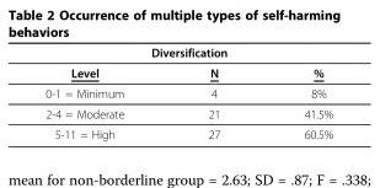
<table><thead><tr><td colspan="3">Diversification</td></tr><tr><td>Level</td><td>N</td><td>%</td></tr></thead><tbody><tr><td>0-1 = Minimum</td><td>4</td><td>8%</td></tr><tr><td>2-4 = Moderate</td><td>21</td><td>41.5%</td></tr><tr><td>5-11 = High</td><td>27</td><td>60.5%</td></tr></tbody></table>